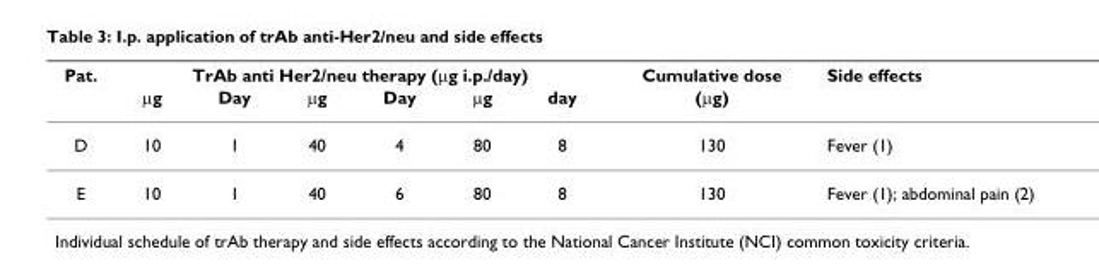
<table><thead><tr><td rowspan="2">Pat.</td><td colspan="6">TrAb anti Her2/neu therapy (μg i.p./day)</td><td rowspan="2">Cumulative dose (μg)</td><td rowspan="2">Side effects</td></tr><tr><td>μg</td><td>Day</td><td>μg</td><td>Day</td><td>μg</td><td>day</td></tr></thead><tbody><tr><td>D</td><td>10</td><td>1</td><td>40</td><td>4</td><td>80</td><td>8</td><td>130</td><td>Fever (1)</td></tr><tr><td>E</td><td>10</td><td>1</td><td>40</td><td>6</td><td>80</td><td>8</td><td>130</td><td>Fever (1); abdominal pain (2)</td></tr></tbody></table>